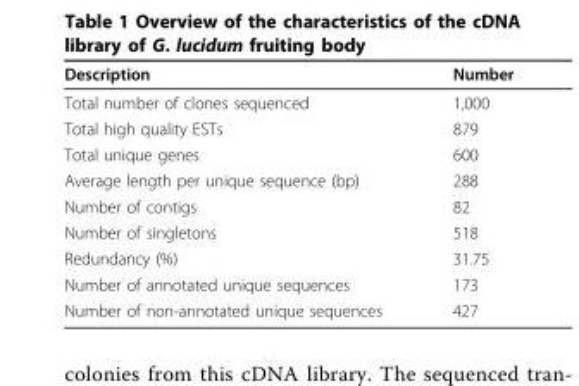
<table><thead><tr><td>Description</td><td>Number</td></tr></thead><tbody><tr><td>Total number of clones sequenced</td><td>1,000</td></tr><tr><td>Total high quality ESTs</td><td>879</td></tr><tr><td>Total unique genes</td><td>600</td></tr><tr><td>Average length per unique sequence (bp)</td><td>288</td></tr><tr><td>Number of contigs</td><td>82</td></tr><tr><td>Number of singletons</td><td>518</td></tr><tr><td>Redundancy (%)</td><td>31.75</td></tr><tr><td>Number of annotated unique sequences</td><td>173</td></tr><tr><td>Number of non-annotated unique sequences</td><td>427</td></tr></tbody></table>